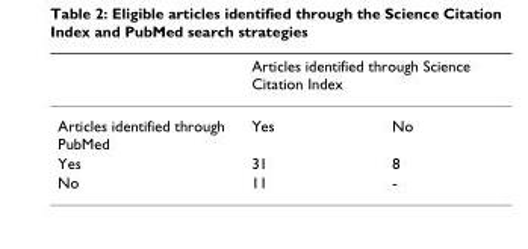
<table><thead><tr><td rowspan="2">Articles identified through PubMed</td><td colspan="2">Articles identified through Science Citation Index</td></tr><tr><td>Yes</td><td>No</td></tr></thead><tbody><tr><td>Yes</td><td>31</td><td>8</td></tr><tr><td>No</td><td>11</td><td>-</td></tr></tbody></table>